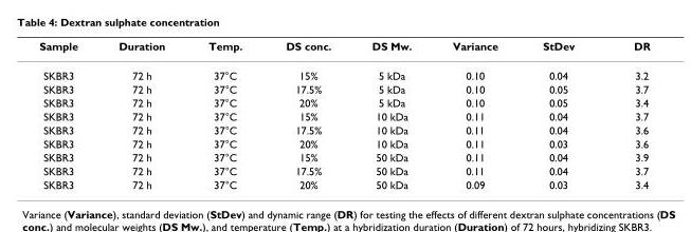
<table><thead><tr><td>Sample</td><td>Duration</td><td>Temp.</td><td>DS conc.</td><td>DS Mw.</td><td>Variance</td><td>StDev</td><td>DR</td></tr></thead><tbody><tr><td>SKBR3</td><td>72 h</td><td>37°C</td><td>15%</td><td>5 kDa</td><td>0.10</td><td>0.04</td><td>3.2</td></tr><tr><td>SKBR3</td><td>72 h</td><td>37°C</td><td>17.5%</td><td>5 kDa</td><td>0.10</td><td>0.05</td><td>3.7</td></tr><tr><td>SKBR3</td><td>72 h</td><td>37°C</td><td>20%</td><td>5 kDa</td><td>0.10</td><td>0.05</td><td>3.4</td></tr><tr><td>SKBR3</td><td>72 h</td><td>37°C</td><td>15%</td><td>10 kDa</td><td>0.11</td><td>0.04</td><td>3.7</td></tr><tr><td>SKBR3</td><td>72 h</td><td>37°C</td><td>17.5%</td><td>10 kDa</td><td>0.11</td><td>0.04</td><td>3.6</td></tr><tr><td>SKBR3</td><td>72 h</td><td>37°C</td><td>20%</td><td>10 kDa</td><td>0.11</td><td>0.03</td><td>3.6</td></tr><tr><td>SKBR3</td><td>72 h</td><td>37°C</td><td>15%</td><td>50 kDa</td><td>0.11</td><td>0.04</td><td>3.9</td></tr><tr><td>SKBR3</td><td>72 h</td><td>37°C</td><td>17.5%</td><td>50 kDa</td><td>0.11</td><td>0.04</td><td>3.7</td></tr><tr><td>SKBR3</td><td>72 h</td><td>37°C</td><td>20%</td><td>50 kDa</td><td>0.09</td><td>0.03</td><td>3.4</td></tr></tbody></table>